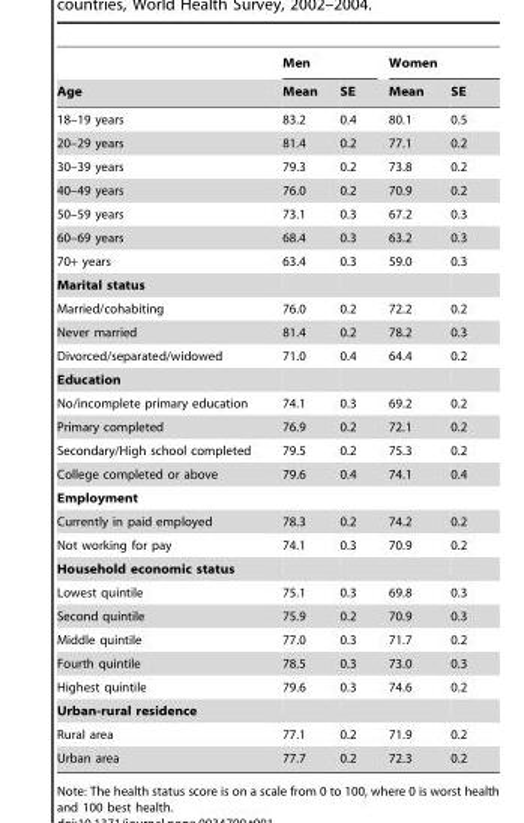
<table><thead><tr><td rowspan="2">Age</td><td colspan="2">Men</td><td colspan="2">Women</td></tr><tr><td>Mean</td><td>SE</td><td>Mean</td><td>SE</td></tr></thead><tbody><tr><td>18–19 years</td><td>83.2</td><td>0.4</td><td>80.1</td><td>0.5</td></tr><tr><td>20–29 years</td><td>81.4</td><td>0.2</td><td>77.1</td><td>0.2</td></tr><tr><td>30–39 years</td><td>79.3</td><td>0.2</td><td>73.8</td><td>0.2</td></tr><tr><td>40–49 years</td><td>76.0</td><td>0.2</td><td>70.9</td><td>0.2</td></tr><tr><td>50–59 years</td><td>73.1</td><td>0.3</td><td>67.2</td><td>0.3</td></tr><tr><td>60–69 years</td><td>68.4</td><td>0.3</td><td>63.2</td><td>0.3</td></tr><tr><td>70+ years</td><td>63.4</td><td>0.3</td><td>59.0</td><td>0.3</td></tr><tr><td colspan="5">Marital status</td></tr><tr><td>Married/cohabiting</td><td>76.0</td><td>0.2</td><td>72.2</td><td>0.2</td></tr><tr><td>Never married</td><td>81.4</td><td>0.2</td><td>78.2</td><td>0.3</td></tr><tr><td>Divorced/separated/widowed</td><td>71.0</td><td>0.4</td><td>64.4</td><td>0.2</td></tr><tr><td colspan="5">Education</td></tr><tr><td>No/incomplete primary education</td><td>74.1</td><td>0.3</td><td>69.2</td><td>0.2</td></tr><tr><td>Primary completed</td><td>76.9</td><td>0.2</td><td>72.1</td><td>0.2</td></tr><tr><td>Secondary/High school completed</td><td>79.5</td><td>0.2</td><td>75.3</td><td>0.2</td></tr><tr><td>College completed or above</td><td>79.6</td><td>0.4</td><td>74.1</td><td>0.4</td></tr><tr><td colspan="5">Employment</td></tr><tr><td>Currently in paid employed</td><td>78.3</td><td>0.2</td><td>74.2</td><td>0.2</td></tr><tr><td>Not working for pay</td><td>74.1</td><td>0.3</td><td>70.9</td><td>0.2</td></tr><tr><td colspan="5">Household economic status</td></tr><tr><td>Lowest quintile</td><td>75.1</td><td>0.3</td><td>69.8</td><td>0.3</td></tr><tr><td>Second quintile</td><td>75.9</td><td>0.2</td><td>70.9</td><td>0.3</td></tr><tr><td>Middle quintile</td><td>77.0</td><td>0.3</td><td>71.7</td><td>0.2</td></tr><tr><td>Fourth quintile</td><td>78.5</td><td>0.3</td><td>73.0</td><td>0.3</td></tr><tr><td>Highest quintile</td><td>79.6</td><td>0.3</td><td>74.6</td><td>0.2</td></tr><tr><td colspan="5">Urban-rural residence</td></tr><tr><td>Rural area</td><td>77.1</td><td>0.2</td><td>71.9</td><td>0.2</td></tr><tr><td>Urban area</td><td>77.7</td><td>0.2</td><td>72.3</td><td>0.2</td></tr></tbody></table>